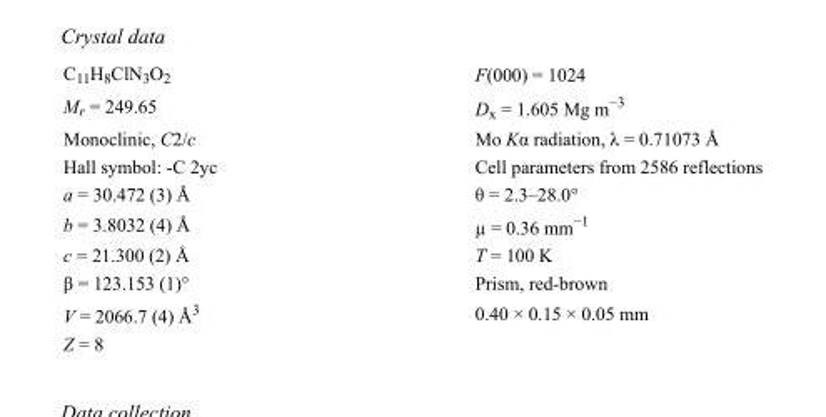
<table><tbody><tr><td>C<sub>11</sub>H<sub>8</sub>ClN<sub>3</sub>O<sub>2</sub></td><td>F(000) = 1024</td></tr><tr><td>M<sub>r</sub> = 249.65</td><td>D<sub>x</sub> = 1.605 Mg m<sup>−3</sup></td></tr><tr><td>Monoclinic, C2/c</td><td>Mo Kα radiation, λ = 0.71073 Å</td></tr><tr><td>Hall symbol: -C 2yc</td><td>Cell parameters from 2586 reflections</td></tr><tr><td>a = 30.472 (3) Å</td><td>θ = 2.3–28.0°</td></tr><tr><td>b = 3.8032 (4) Å</td><td>µ = 0.36 mm<sup>−1</sup></td></tr><tr><td>c = 21.300 (2) Å</td><td>T = 100 K</td></tr><tr><td>β = 123.153 (1)°</td><td>Prism, red-brown</td></tr><tr><td>V = 2066.7 (4) Å<sup>3</sup></td><td>0.40 × 0.15 × 0.05 mm</td></tr><tr><td>Z = 8</td><td></td></tr></tbody></table>